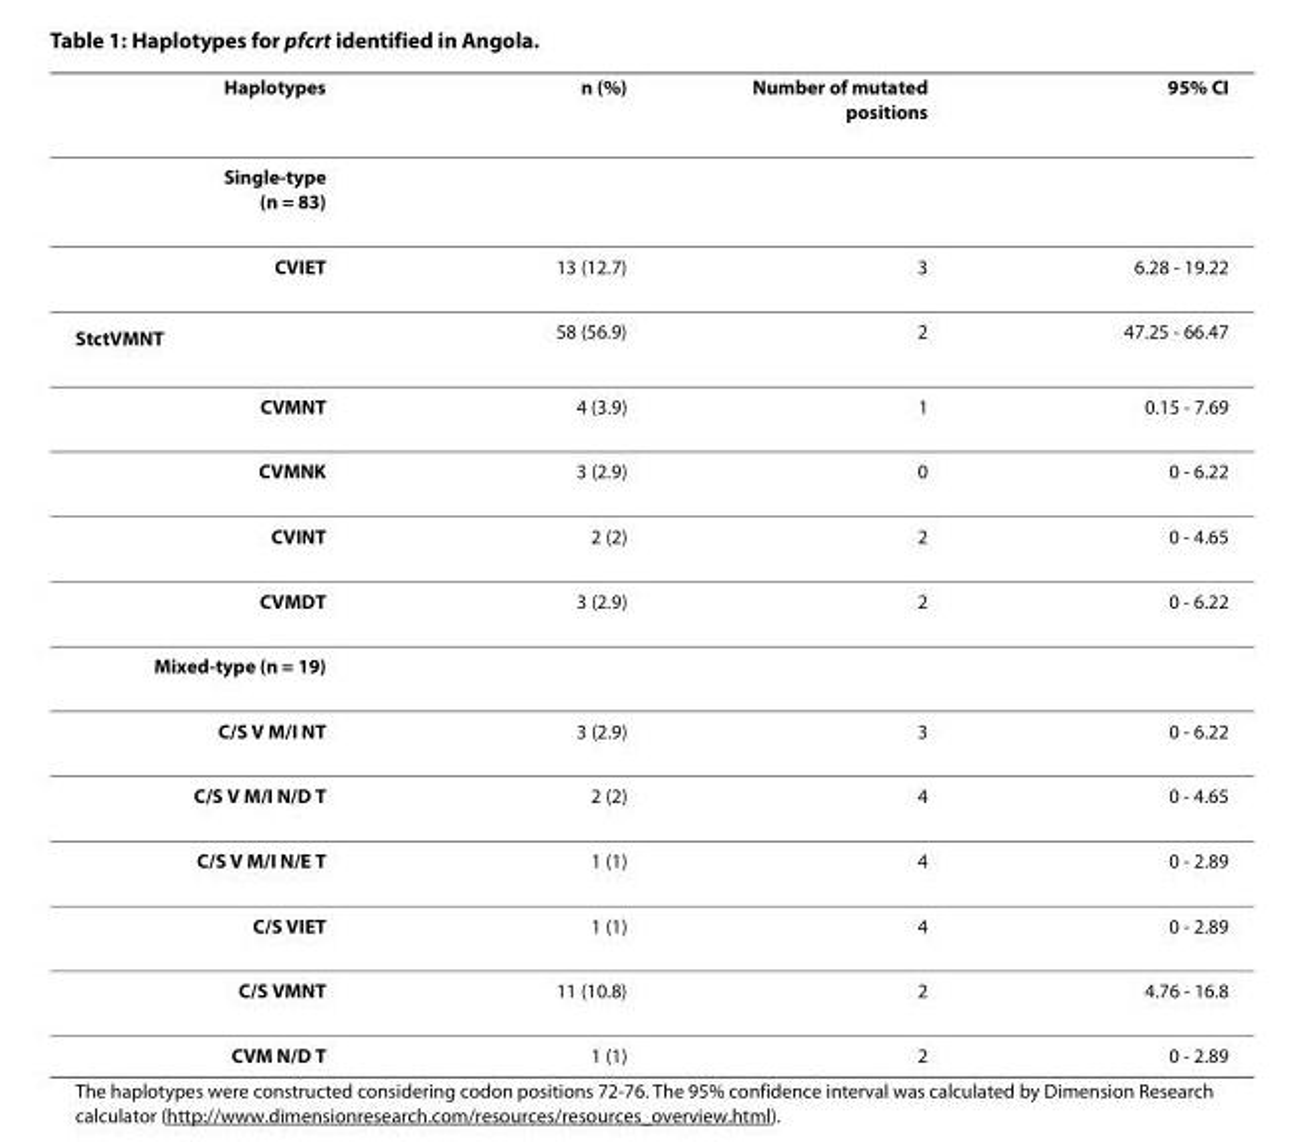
<table><thead><tr><td>Haplotypes</td><td>n (%)</td><td>Number of mutated positions</td><td>95% CI</td></tr></thead><tbody><tr><td colspan="4">Single-type (n = 83)</td></tr><tr><td>CVIET</td><td>13 (12.7)</td><td>3</td><td>6.28 - 19.22</td></tr><tr><td>S<sub>tct</sub>VMNT</td><td>58 (56.9)</td><td>2</td><td>47.25 - 66.47</td></tr><tr><td>CVMNT</td><td>4 (3.9)</td><td>1</td><td>0.15 - 7.69</td></tr><tr><td>CVMNK</td><td>3 (2.9)</td><td>0</td><td>0 - 6.22</td></tr><tr><td>CVINT</td><td>2 (2)</td><td>2</td><td>0 - 4.65</td></tr><tr><td>CVMDT</td><td>3 (2.9)</td><td>2</td><td>0 - 6.22</td></tr><tr><td colspan="4">Mixed-type (n = 19)</td></tr><tr><td>C/S V M/I NT</td><td>3 (2.9)</td><td>3</td><td>0 - 6.22</td></tr><tr><td>C/S V M/I N/D T</td><td>2 (2)</td><td>4</td><td>0 - 4.65</td></tr><tr><td>C/S V M/I N/E T</td><td>1 (1)</td><td>4</td><td>0 - 2.89</td></tr><tr><td>C/S VIET</td><td>1 (1)</td><td>4</td><td>0 - 2.89</td></tr><tr><td>C/S VMNT</td><td>11 (10.8)</td><td>2</td><td>4.76 - 16.8</td></tr><tr><td>CVM N/D T</td><td>1 (1)</td><td>2</td><td>0 - 2.89</td></tr></tbody></table>